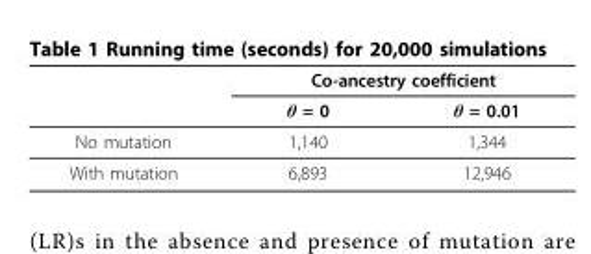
<table><thead><tr><td rowspan="2"></td><td colspan="2">Co-ancestry coefficient</td></tr><tr><td>θ = 0</td><td>θ = 0.01</td></tr></thead><tbody><tr><td>No mutation</td><td>1,140</td><td>1,344</td></tr><tr><td>With mutation</td><td>6,893</td><td>12,946</td></tr></tbody></table>